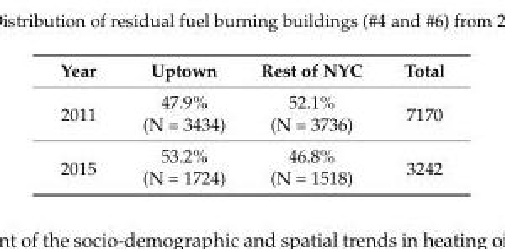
<table><thead><tr><td>Year</td><td>Uptown</td><td>Rest of NYC</td><td>Total</td></tr></thead><tbody><tr><td rowspan="2">2011</td><td>47.9%</td><td>52.1%</td><td rowspan="2">7170</td></tr><tr><td>(N = 3434)</td><td>(N = 3736)</td></tr><tr><td rowspan="2">2015</td><td>53.2%</td><td>46.8%</td><td rowspan="2">3242</td></tr><tr><td>(N = 1724)</td><td>(N = 1518)</td></tr></tbody></table>